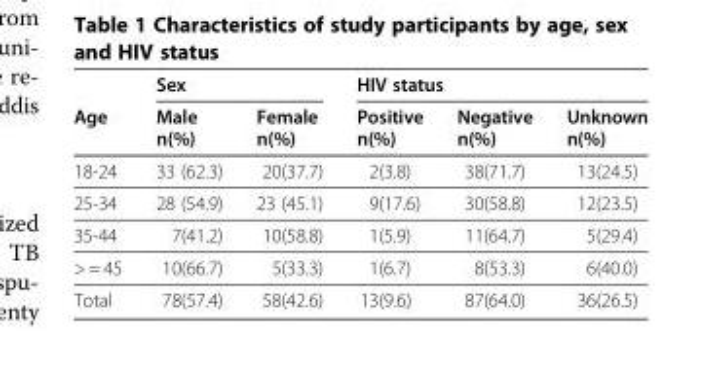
<table><thead><tr><td rowspan="2">Age</td><td colspan="2">Sex</td><td colspan="3">HIV status</td></tr><tr><td>Male n(%)</td><td>Female n(%)</td><td>Positive n(%)</td><td>Negative n(%)</td><td>Unknown n(%)</td></tr></thead><tbody><tr><td>18-24</td><td>33 (62.3)</td><td>20(37.7)</td><td>2(3.8)</td><td>38(71.7)</td><td>13(24.5)</td></tr><tr><td>25-34</td><td>28 (54.9)</td><td>23 (45.1)</td><td>9(17.6)</td><td>30(58.8)</td><td>12(23.5)</td></tr><tr><td>35-44</td><td>7(41.2)</td><td>10(58.8)</td><td>1(5.9)</td><td>11(64.7)</td><td>5(29.4)</td></tr><tr><td>&gt; = 45</td><td>10(66.7)</td><td>5(33.3)</td><td>1(6.7)</td><td>8(53.3)</td><td>6(40.0)</td></tr><tr><td>Total</td><td>78(57.4)</td><td>58(42.6)</td><td>13(9.6)</td><td>87(64.0)</td><td>36(26.5)</td></tr></tbody></table>